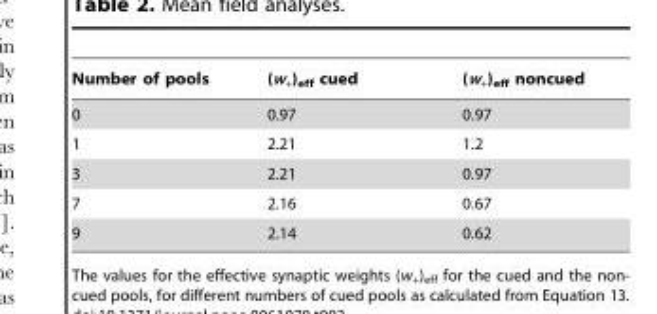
<table><thead><tr><td>Number of pools</td><td>(w<sub>+</sub>)<sub>eff</sub> cued</td><td>(w<sub>+</sub>)<sub>eff</sub> noncued</td></tr></thead><tbody><tr><td>0</td><td>0.97</td><td>0.97</td></tr><tr><td>1</td><td>2.21</td><td>1.2</td></tr><tr><td>3</td><td>2.21</td><td>0.97</td></tr><tr><td>7</td><td>2.16</td><td>0.67</td></tr><tr><td>9</td><td>2.14</td><td>0.62</td></tr></tbody></table>